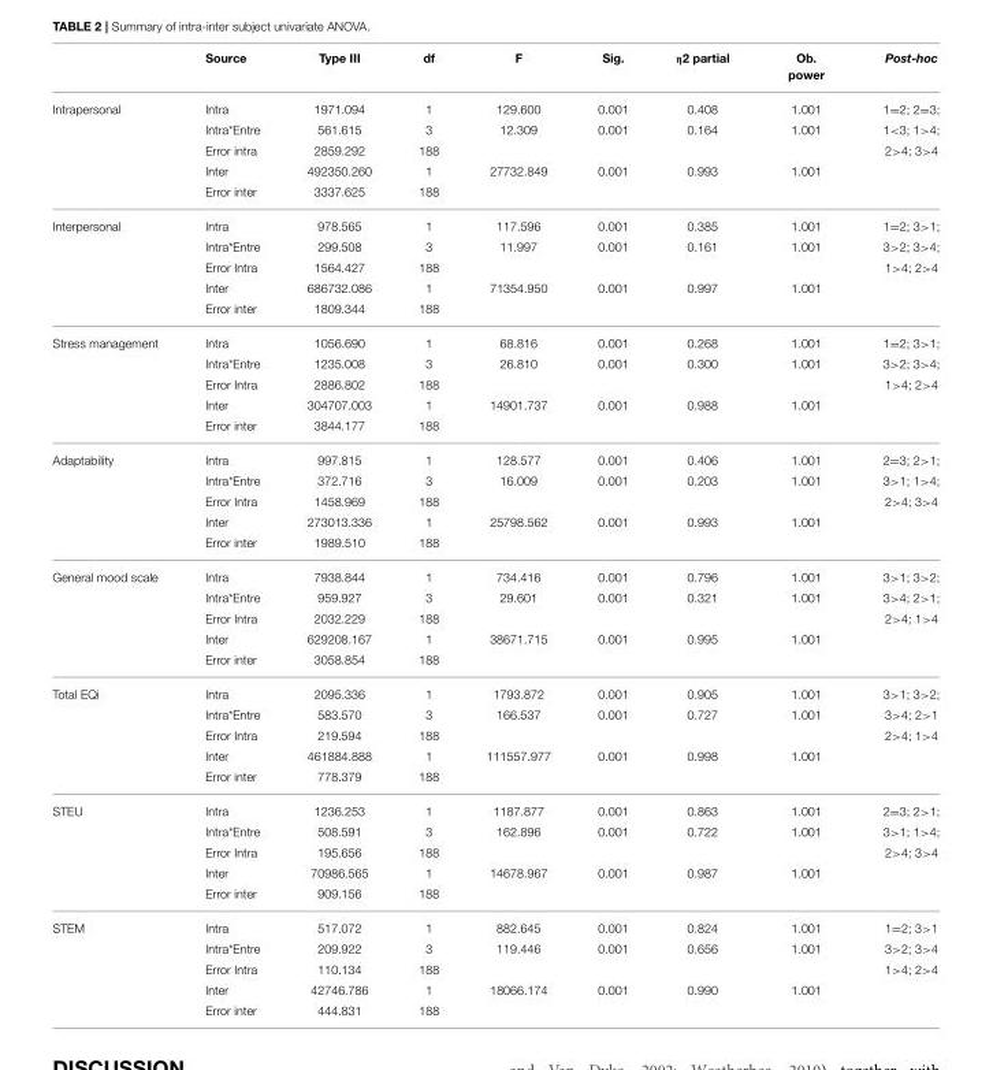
<table><thead><tr><td></td><td>Source</td><td>Type III</td><td>df</td><td>F</td><td>Sig.</td><td>η2 partial</td><td>Ob. power</td><td>Post-hoc</td></tr></thead><tbody><tr><td rowspan="5">Intrapersonal</td><td>Intra</td><td>1971.094</td><td>1</td><td>129.600</td><td>0.001</td><td>0.408</td><td>1.001</td><td>1=2; 2=3;</td></tr><tr><td>Intra*Entre</td><td>561.615</td><td>3</td><td>12.309</td><td>0.001</td><td>0.164</td><td>1.001</td><td>1&lt;3; 1&gt;4;</td></tr><tr><td>Error intra</td><td>2859.292</td><td>188</td><td></td><td></td><td></td><td></td><td>2&gt;4; 3&gt;4</td></tr><tr><td>Inter</td><td>492350.260</td><td>1</td><td>27732.849</td><td>0.001</td><td>0.993</td><td>1.001</td><td></td></tr><tr><td>Error inter</td><td>3337.625</td><td>188</td><td></td><td></td><td></td><td></td><td></td></tr><tr><td rowspan="5">Interpersonal</td><td>Intra</td><td>978.565</td><td>1</td><td>117.596</td><td>0.001</td><td>0.385</td><td>1.001</td><td>1=2; 3&gt;1;</td></tr><tr><td>Intra*Entre</td><td>299.508</td><td>3</td><td>11.997</td><td>0.001</td><td>0.161</td><td>1.001</td><td>3&gt;2; 3&gt;4;</td></tr><tr><td>Error Intra</td><td>1564.427</td><td>188</td><td></td><td></td><td></td><td></td><td>1&gt;4; 2&gt;4</td></tr><tr><td>Inter</td><td>686732.086</td><td>1</td><td>71354.950</td><td>0.001</td><td>0.997</td><td>1.001</td><td></td></tr><tr><td>Error inter</td><td>1809.344</td><td>188</td><td></td><td></td><td></td><td></td><td></td></tr><tr><td rowspan="5">Stress management</td><td>Intra</td><td>1056.690</td><td>1</td><td>68.816</td><td>0.001</td><td>0.268</td><td>1.001</td><td>1=2; 3&gt;1;</td></tr><tr><td>Intra*Entre</td><td>1235.008</td><td>3</td><td>26.810</td><td>0.001</td><td>0.300</td><td>1.001</td><td>3&gt;2; 3&gt;4;</td></tr><tr><td>Error Intra</td><td>2886.802</td><td>188</td><td></td><td></td><td></td><td></td><td>1&gt;4; 2&gt;4</td></tr><tr><td>Inter</td><td>304707.003</td><td>1</td><td>14901.737</td><td>0.001</td><td>0.988</td><td>1.001</td><td></td></tr><tr><td>Error inter</td><td>3844.177</td><td>188</td><td></td><td></td><td></td><td></td><td></td></tr><tr><td rowspan="5">Adaptability</td><td>Intra</td><td>997.815</td><td>1</td><td>128.577</td><td>0.001</td><td>0.406</td><td>1.001</td><td>2=3; 2&gt;1;</td></tr><tr><td>Intra*Entre</td><td>372.716</td><td>3</td><td>16.009</td><td>0.001</td><td>0.203</td><td>1.001</td><td>3&gt;1; 1&gt;4;</td></tr><tr><td>Error Intra</td><td>1458.969</td><td>188</td><td></td><td></td><td></td><td></td><td>2&gt;4; 3&gt;4</td></tr><tr><td>Inter</td><td>273013.336</td><td>1</td><td>25798.562</td><td>0.001</td><td>0.993</td><td>1.001</td><td></td></tr><tr><td>Error inter</td><td>1989.510</td><td>188</td><td></td><td></td><td></td><td></td><td></td></tr><tr><td rowspan="5">General mood scale</td><td>Intra</td><td>7938.844</td><td>1</td><td>734.416</td><td>0.001</td><td>0.796</td><td>1.001</td><td>3&gt;1; 3&gt;2;</td></tr><tr><td>Intra*Entre</td><td>959.927</td><td>3</td><td>29.601</td><td>0.001</td><td>0.321</td><td>1.001</td><td>3&gt;4; 2&gt;1;</td></tr><tr><td>Error Intra</td><td>2032.229</td><td>188</td><td></td><td></td><td></td><td></td><td>2&gt;4; 1&gt;4</td></tr><tr><td>Inter</td><td>629208.167</td><td>1</td><td>38671.715</td><td>0.001</td><td>0.995</td><td>1.001</td><td></td></tr><tr><td>Error inter</td><td>3058.854</td><td>188</td><td></td><td></td><td></td><td></td><td></td></tr><tr><td rowspan="5">Total EQi</td><td>Intra</td><td>2095.336</td><td>1</td><td>1793.872</td><td>0.001</td><td>0.905</td><td>1.001</td><td>3&gt;1; 3&gt;2;</td></tr><tr><td>Intra*Entre</td><td>583.570</td><td>3</td><td>166.537</td><td>0.001</td><td>0.727</td><td>1.001</td><td>3&gt;4; 2&gt;1</td></tr><tr><td>Error Intra</td><td>219.594</td><td>188</td><td></td><td></td><td></td><td></td><td>2&gt;4; 1&gt;4</td></tr><tr><td>Inter</td><td>461884.888</td><td>1</td><td>111557.977</td><td>0.001</td><td>0.998</td><td>1.001</td><td></td></tr><tr><td>Error inter</td><td>778.379</td><td>188</td><td></td><td></td><td></td><td></td><td></td></tr><tr><td rowspan="5">STEU</td><td>Intra</td><td>1236.253</td><td>1</td><td>1187.877</td><td>0.001</td><td>0.863</td><td>1.001</td><td>2=3; 2&gt;1;</td></tr><tr><td>Intra*Entre</td><td>508.591</td><td>3</td><td>162.896</td><td>0.001</td><td>0.722</td><td>1.001</td><td>3&gt;1; 1&gt;4;</td></tr><tr><td>Error Intra</td><td>195.656</td><td>188</td><td></td><td></td><td></td><td></td><td>2&gt;4; 3&gt;4</td></tr><tr><td>Inter</td><td>70986.565</td><td>1</td><td>14678.967</td><td>0.001</td><td>0.987</td><td>1.001</td><td></td></tr><tr><td>Error inter</td><td>909.156</td><td>188</td><td></td><td></td><td></td><td></td><td></td></tr><tr><td rowspan="5">STEM</td><td>Intra</td><td>517.072</td><td>1</td><td>882.645</td><td>0.001</td><td>0.824</td><td>1.001</td><td>1=2; 3&gt;1</td></tr><tr><td>Intra*Entre</td><td>209.922</td><td>3</td><td>119.446</td><td>0.001</td><td>0.656</td><td>1.001</td><td>3&gt;2; 3&gt;4</td></tr><tr><td>Error Intra</td><td>110.134</td><td>188</td><td></td><td></td><td></td><td></td><td>1&gt;4; 2&gt;4</td></tr><tr><td>Inter</td><td>42746.786</td><td>1</td><td>18066.174</td><td>0.001</td><td>0.990</td><td>1.001</td><td></td></tr><tr><td>Error inter</td><td>444.831</td><td>188</td><td></td><td></td><td></td><td></td><td></td></tr></tbody></table>